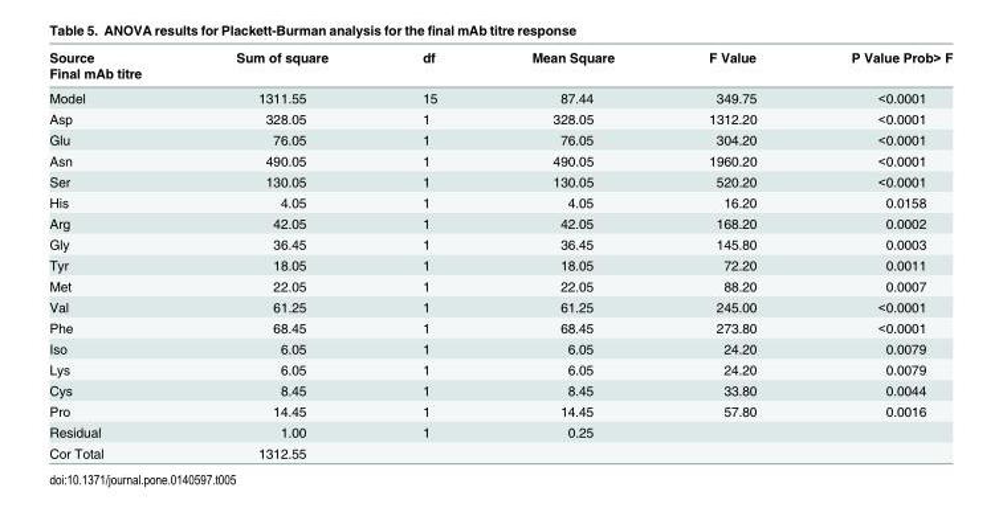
<table><thead><tr><td rowspan="2">Source Final mAb titre</td><td rowspan="2">Sum of square</td><td rowspan="2">df</td><td rowspan="2">Mean Square</td><td rowspan="2">F Value</td><td rowspan="2">P Value Prob&gt; F</td></tr><tr></tr></thead><tbody><tr><td>Model</td><td>1311.55</td><td>15</td><td>87.44</td><td>349.75</td><td>&lt;0.0001</td></tr><tr><td>Asp</td><td>328.05</td><td>1</td><td>328.05</td><td>1312.20</td><td>&lt;0.0001</td></tr><tr><td>Glu</td><td>76.05</td><td>1</td><td>76.05</td><td>304.20</td><td>&lt;0.0001</td></tr><tr><td>Asn</td><td>490.05</td><td>1</td><td>490.05</td><td>1960.20</td><td>&lt;0.0001</td></tr><tr><td>Ser</td><td>130.05</td><td>1</td><td>130.05</td><td>520.20</td><td>&lt;0.0001</td></tr><tr><td>His</td><td>4.05</td><td>1</td><td>4.05</td><td>16.20</td><td>0.0158</td></tr><tr><td>Arg</td><td>42.05</td><td>1</td><td>42.05</td><td>168.20</td><td>0.0002</td></tr><tr><td>Gly</td><td>36.45</td><td>1</td><td>36.45</td><td>145.80</td><td>0.0003</td></tr><tr><td>Tyr</td><td>18.05</td><td>1</td><td>18.05</td><td>72.20</td><td>0.0011</td></tr><tr><td>Met</td><td>22.05</td><td>1</td><td>22.05</td><td>88.20</td><td>0.0007</td></tr><tr><td>Val</td><td>61.25</td><td>1</td><td>61.25</td><td>245.00</td><td>&lt;0.0001</td></tr><tr><td>Phe</td><td>68.45</td><td>1</td><td>68.45</td><td>273.80</td><td>&lt;0.0001</td></tr><tr><td>Iso</td><td>6.05</td><td>1</td><td>6.05</td><td>24.20</td><td>0.0079</td></tr><tr><td>Lys</td><td>6.05</td><td>1</td><td>6.05</td><td>24.20</td><td>0.0079</td></tr><tr><td>Cys</td><td>8.45</td><td>1</td><td>8.45</td><td>33.80</td><td>0.0044</td></tr><tr><td>Pro</td><td>14.45</td><td>1</td><td>14.45</td><td>57.80</td><td>0.0016</td></tr><tr><td>Residual</td><td>1.00</td><td>1</td><td>0.25</td><td></td><td></td></tr><tr><td>Cor Total</td><td>1312.55</td><td></td><td></td><td></td><td></td></tr></tbody></table>